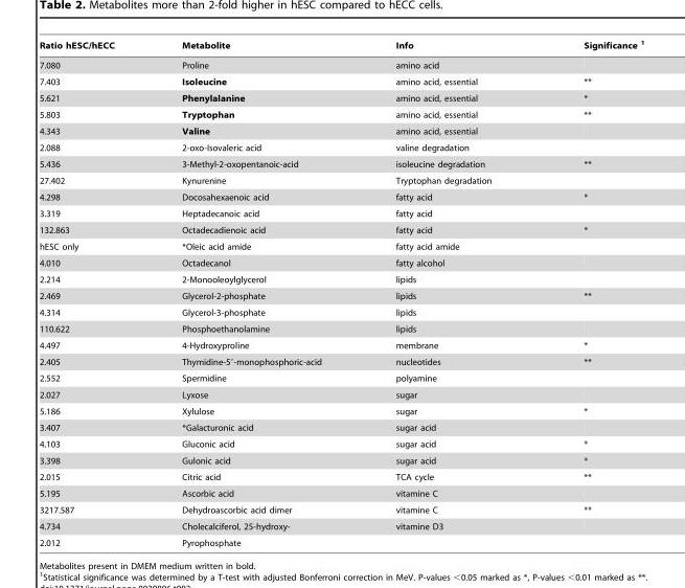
<table><thead><tr><td>Ratio hESC/hECC</td><td>Metabolite</td><td>Info</td><td>Significance 1</td></tr></thead><tbody><tr><td>7.080</td><td>Proline</td><td>amino acid</td><td></td></tr><tr><td>7.403</td><td>Isoleucine</td><td>amino acid, essential</td><td>**</td></tr><tr><td>5.621</td><td>Phenylalanine</td><td>amino acid, essential</td><td>*</td></tr><tr><td>5.803</td><td>Tryptophan</td><td>amino acid, essential</td><td>**</td></tr><tr><td>4.343</td><td>Valine</td><td>amino acid, essential</td><td></td></tr><tr><td>2.088</td><td>2-oxo-Isovaleric acid</td><td>valine degradation</td><td></td></tr><tr><td>5.436</td><td>3-Methyl-2-oxopentanoic-acid</td><td>isoleucine degradation</td><td>**</td></tr><tr><td>27.402</td><td>Kynurenine</td><td>Tryptophan degradation</td><td></td></tr><tr><td>4.298</td><td>Docosahexaenoic acid</td><td>fatty acid</td><td>*</td></tr><tr><td>3.319</td><td>Heptadecanoic acid</td><td>fatty acid</td><td></td></tr><tr><td>132.863</td><td>Octadecadienoic acid</td><td>fatty acid</td><td>*</td></tr><tr><td>hESC only</td><td>*Oleic acid amide</td><td>fatty acid amide</td><td></td></tr><tr><td>4.010</td><td>Octadecanol</td><td>fatty alcohol</td><td></td></tr><tr><td>2.214</td><td>2-Monooleoylglycerol</td><td>lipids</td><td></td></tr><tr><td>2.469</td><td>Glycerol-2-phosphate</td><td>lipids</td><td>**</td></tr><tr><td>4.314</td><td>Glycerol-3-phosphate</td><td>lipids</td><td></td></tr><tr><td>110.622</td><td>Phosphoethanolamine</td><td>lipids</td><td></td></tr><tr><td>4.497</td><td>4-Hydroxyproline</td><td>membrane</td><td>*</td></tr><tr><td>2.405</td><td>Thymidine-5′-monophosphoric-acid</td><td>nucleotides</td><td>**</td></tr><tr><td>2.552</td><td>Spermidine</td><td>polyamine</td><td></td></tr><tr><td>2.027</td><td>Lyxose</td><td>sugar</td><td></td></tr><tr><td>5.186</td><td>Xylulose</td><td>sugar</td><td>*</td></tr><tr><td>3.407</td><td>*Galacturonic acid</td><td>sugar acid</td><td></td></tr><tr><td>4.103</td><td>Gluconic acid</td><td>sugar acid</td><td>*</td></tr><tr><td>3.398</td><td>Gulonic acid</td><td>sugar acid</td><td>*</td></tr><tr><td>2.015</td><td>Citric acid</td><td>TCA cycle</td><td>**</td></tr><tr><td>5.195</td><td>Ascorbic acid</td><td>vitamine C</td><td></td></tr><tr><td>3217.587</td><td>Dehydroascorbic acid dimer</td><td>vitamine C</td><td>**</td></tr><tr><td>4.734</td><td>Cholecalciferol, 25-hydroxy-</td><td>vitamine D3</td><td></td></tr><tr><td>2.012</td><td>Pyrophosphate</td><td></td><td></td></tr></tbody></table>